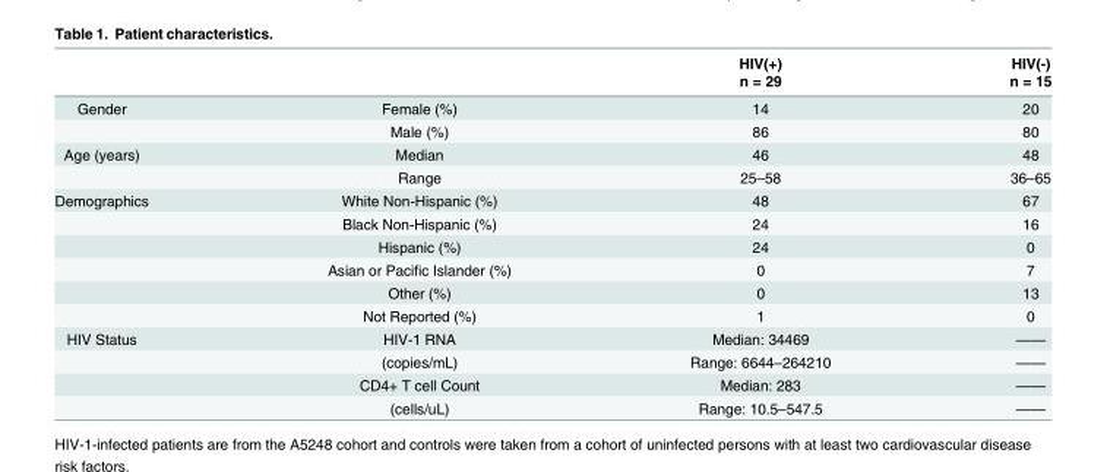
<table><thead><tr><td rowspan="2"></td><td rowspan="2"></td><td rowspan="2">HIV(+) n = 29</td><td rowspan="2">HIV(-) n = 15</td></tr><tr></tr></thead><tbody><tr><td rowspan="2">Gender</td><td>Female (%)</td><td>14</td><td>20</td></tr><tr><td>Male (%)</td><td>86</td><td>80</td></tr><tr><td rowspan="2">Age (years)</td><td>Median</td><td>46</td><td>48</td></tr><tr><td>Range</td><td>25–58</td><td>36–65</td></tr><tr><td rowspan="6">Demographics</td><td>White Non-Hispanic (%)</td><td>48</td><td>67</td></tr><tr><td>Black Non-Hispanic (%)</td><td>24</td><td>16</td></tr><tr><td>Hispanic (%)</td><td>24</td><td>0</td></tr><tr><td>Asian or Pacific Islander (%)</td><td>0</td><td>7</td></tr><tr><td>Other (%)</td><td>0</td><td>13</td></tr><tr><td>Not Reported (%)</td><td>1</td><td>0</td></tr><tr><td rowspan="4">HIV Status</td><td>HIV-1 RNA</td><td>Median: 34469</td><td>——</td></tr><tr><td>(copies/mL)</td><td>Range: 6644–264210</td><td>——</td></tr><tr><td>CD4+ T cell Count</td><td>Median: 283</td><td>——</td></tr><tr><td>(cells/uL)</td><td>Range: 10.5–547.5</td><td>——</td></tr></tbody></table>